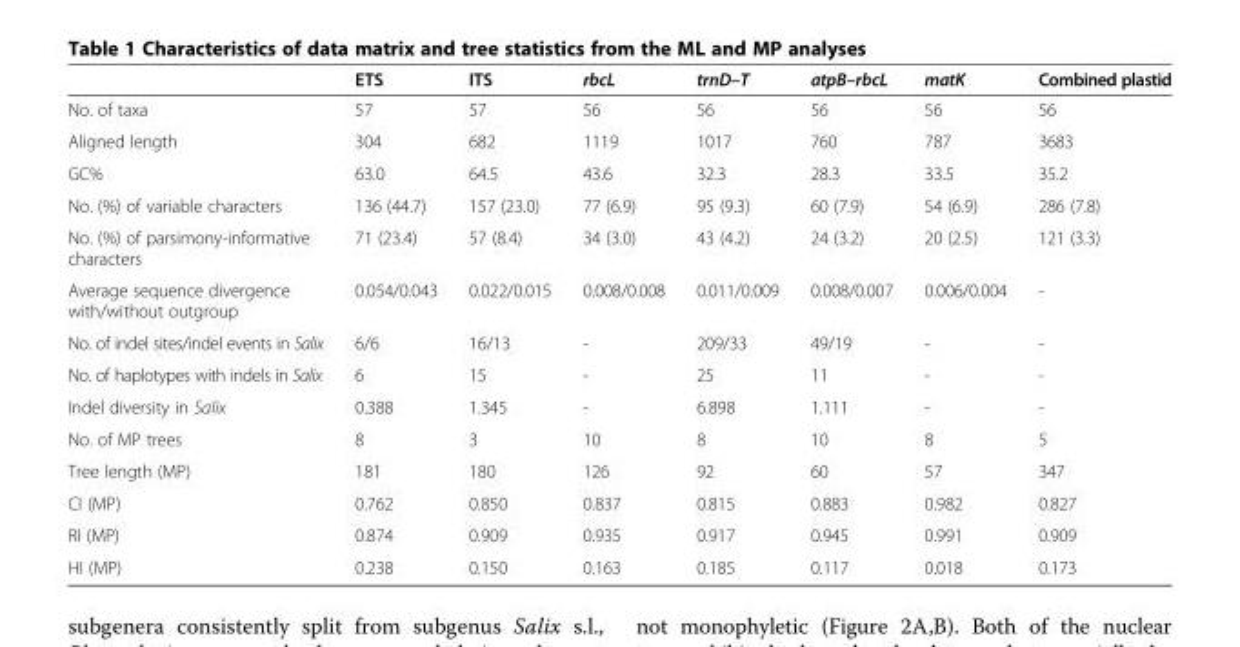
<table><thead><tr><td></td><td>ETS</td><td>ITS</td><td>rbcL</td><td>trnD–T</td><td>atpB–rbcL</td><td>matK</td><td>Combined plastid</td></tr></thead><tbody><tr><td>No. of taxa</td><td>57</td><td>57</td><td>56</td><td>56</td><td>56</td><td>56</td><td>56</td></tr><tr><td>Aligned length</td><td>304</td><td>682</td><td>1119</td><td>1017</td><td>760</td><td>787</td><td>3683</td></tr><tr><td>GC%</td><td>63.0</td><td>64.5</td><td>43.6</td><td>32.3</td><td>28.3</td><td>33.5</td><td>35.2</td></tr><tr><td>No. (%) of variable characters</td><td>136 (44.7)</td><td>157 (23.0)</td><td>77 (6.9)</td><td>95 (9.3)</td><td>60 (7.9)</td><td>54 (6.9)</td><td>286 (7.8)</td></tr><tr><td>No. (%) of parsimony-informative characters</td><td>71 (23.4)</td><td>57 (8.4)</td><td>34 (3.0)</td><td>43 (4.2)</td><td>24 (3.2)</td><td>20 (2.5)</td><td>121 (3.3)</td></tr><tr><td>Average sequence divergence with/without outgroup</td><td>0.054/0.043</td><td>0.022/0.015</td><td>0.008/0.008</td><td>0.011/0.009</td><td>0.008/0.007</td><td>0.006/0.004</td><td>-</td></tr><tr><td>No. of indel sites/indel events in Salix</td><td>6/6</td><td>16/13</td><td>-</td><td>209/33</td><td>49/19</td><td>-</td><td>-</td></tr><tr><td>No. of haplotypes with indels in Salix</td><td>6</td><td>15</td><td>-</td><td>25</td><td>11</td><td>-</td><td>-</td></tr><tr><td>Indel diversity in Salix</td><td>0.388</td><td>1.345</td><td>-</td><td>6.898</td><td>1.111</td><td>-</td><td>-</td></tr><tr><td>No. of MP trees</td><td>8</td><td>3</td><td>10</td><td>8</td><td>10</td><td>8</td><td>5</td></tr><tr><td>Tree length (MP)</td><td>181</td><td>180</td><td>126</td><td>92</td><td>60</td><td>57</td><td>347</td></tr><tr><td>CI (MP)</td><td>0.762</td><td>0.850</td><td>0.837</td><td>0.815</td><td>0.883</td><td>0.982</td><td>0.827</td></tr><tr><td>RI (MP)</td><td>0.874</td><td>0.909</td><td>0.935</td><td>0.917</td><td>0.945</td><td>0.991</td><td>0.909</td></tr><tr><td>HI (MP)</td><td>0.238</td><td>0.150</td><td>0.163</td><td>0.185</td><td>0.117</td><td>0.018</td><td>0.173</td></tr></tbody></table>